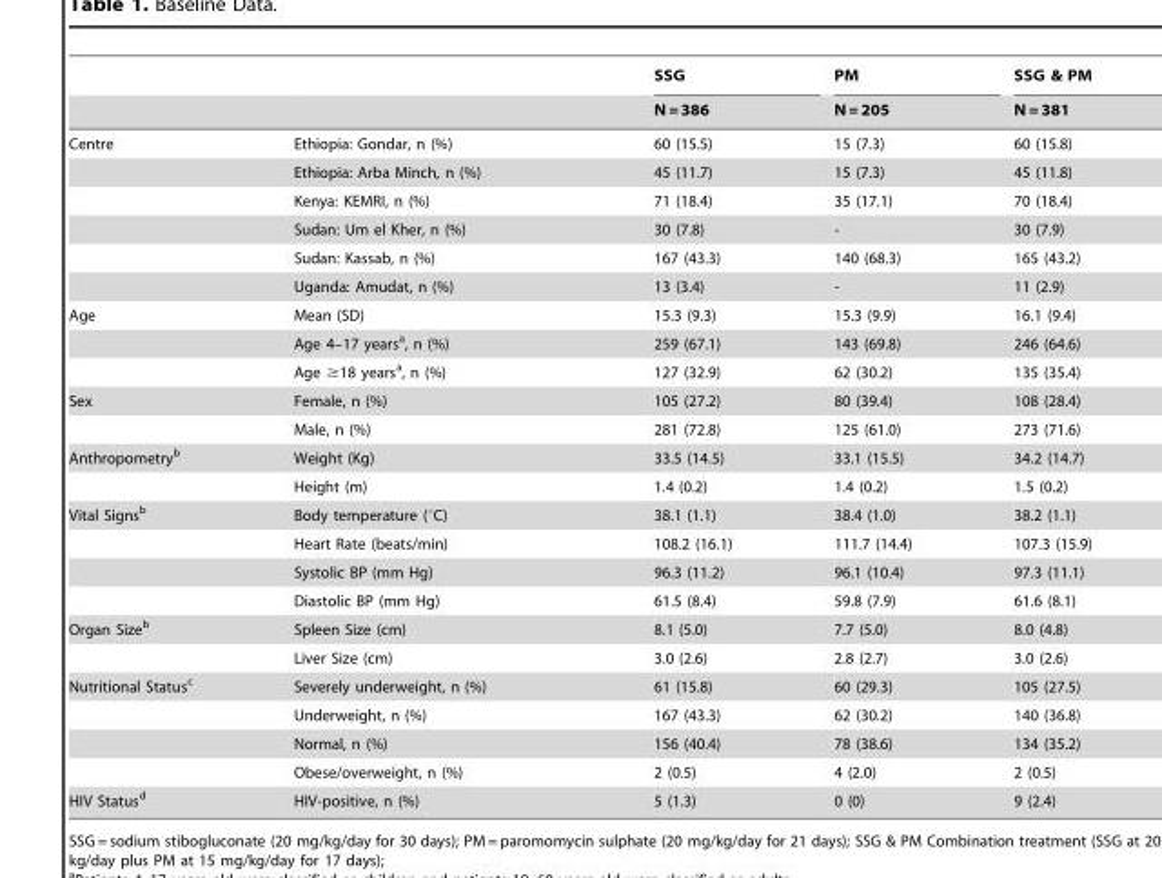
<table><thead><tr><td rowspan="2"></td><td rowspan="2"></td><td rowspan="2">SSG N = 386</td><td rowspan="2">PM N = 205</td><td rowspan="2">SSG &amp; PM N = 381</td></tr><tr></tr></thead><tbody><tr><td rowspan="6">Centre</td><td>Ethiopia: Gondar, n (%)</td><td>60 (15.5)</td><td>15 (7.3)</td><td>60 (15.8)</td></tr><tr><td>Ethiopia: Arba Minch, n (%)</td><td>45 (11.7)</td><td>15 (7.3)</td><td>45 (11.8)</td></tr><tr><td>Kenya: KEMRI, n (%)</td><td>71 (18.4)</td><td>35 (17.1)</td><td>70 (18.4)</td></tr><tr><td>Sudan: Um el Kher, n (%)</td><td>30 (7.8)</td><td>-</td><td>30 (7.9)</td></tr><tr><td>Sudan: Kassab, n (%)</td><td>167 (43.3)</td><td>140 (68.3)</td><td>165 (43.2)</td></tr><tr><td>Uganda: Amudat, n (%)</td><td>13 (3.4)</td><td>-</td><td>11 (2.9)</td></tr><tr><td rowspan="3">Age</td><td>Mean (SD)</td><td>15.3 (9.3)</td><td>15.3 (9.9)</td><td>16.1 (9.4)</td></tr><tr><td>Age 4–17 years<sup>a</sup>, n (%)</td><td>259 (67.1)</td><td>143 (69.8)</td><td>246 (64.6)</td></tr><tr><td>Age ≥18 years<sup>a</sup>, n (%)</td><td>127 (32.9)</td><td>62 (30.2)</td><td>135 (35.4)</td></tr><tr><td rowspan="2">Sex</td><td>Female, n (%)</td><td>105 (27.2)</td><td>80 (39.4)</td><td>108 (28.4)</td></tr><tr><td>Male, n (%)</td><td>281 (72.8)</td><td>125 (61.0)</td><td>273 (71.6)</td></tr><tr><td rowspan="2">Anthropometry<sup>b</sup></td><td>Weight (Kg)</td><td>33.5 (14.5)</td><td>33.1 (15.5)</td><td>34.2 (14.7)</td></tr><tr><td>Height (m)</td><td>1.4 (0.2)</td><td>1.4 (0.2)</td><td>1.5 (0.2)</td></tr><tr><td rowspan="4">Vital Signs<sup>b</sup></td><td>Body temperature (°C)</td><td>38.1 (1.1)</td><td>38.4 (1.0)</td><td>38.2 (1.1)</td></tr><tr><td>Heart Rate (beats/min)</td><td>108.2 (16.1)</td><td>111.7 (14.4)</td><td>107.3 (15.9)</td></tr><tr><td>Systolic BP (mm Hg)</td><td>96.3 (11.2)</td><td>96.1 (10.4)</td><td>97.3 (11.1)</td></tr><tr><td>Diastolic BP (mm Hg)</td><td>61.5 (8.4)</td><td>59.8 (7.9)</td><td>61.6 (8.1)</td></tr><tr><td rowspan="2">Organ Size<sup>b</sup></td><td>Spleen Size (cm)</td><td>8.1 (5.0)</td><td>7.7 (5.0)</td><td>8.0 (4.8)</td></tr><tr><td>Liver Size (cm)</td><td>3.0 (2.6)</td><td>2.8 (2.7)</td><td>3.0 (2.6)</td></tr><tr><td rowspan="4">Nutritional Status<sup>c</sup></td><td>Severely underweight, n (%)</td><td>61 (15.8)</td><td>60 (29.3)</td><td>105 (27.5)</td></tr><tr><td>Underweight, n (%)</td><td>167 (43.3)</td><td>62 (30.2)</td><td>140 (36.8)</td></tr><tr><td>Normal, n (%)</td><td>156 (40.4)</td><td>78 (38.6)</td><td>134 (35.2)</td></tr><tr><td>Obese/overweight, n (%)</td><td>2 (0.5)</td><td>4 (2.0)</td><td>2 (0.5)</td></tr><tr><td>HIV Status<sup>d</sup></td><td>HIV-positive, n (%)</td><td>5 (1.3)</td><td>0 (0)</td><td>9 (2.4)</td></tr></tbody></table>